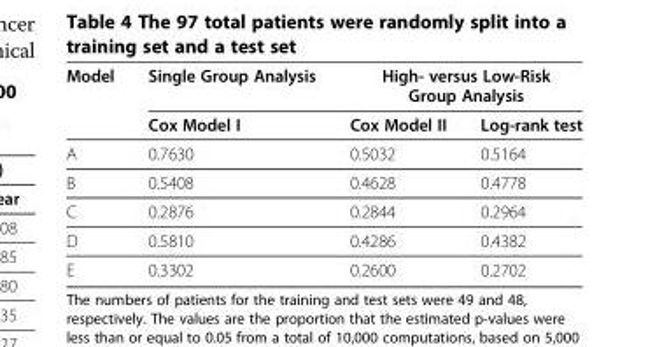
<table><thead><tr><td rowspan="2">Model</td><td rowspan="2">Single Group Analysis Cox Model I</td><td colspan="2">High- versus Low-Risk Group Analysis</td></tr><tr><td>Cox Model II</td><td>Log-rank test</td></tr></thead><tbody><tr><td>A</td><td>0.7630</td><td>0.5032</td><td>0.5164</td></tr><tr><td>B</td><td>0.5408</td><td>0.4628</td><td>0.4778</td></tr><tr><td>C</td><td>0.2876</td><td>0.2844</td><td>0.2964</td></tr><tr><td>D</td><td>0.5810</td><td>0.4286</td><td>0.4382</td></tr><tr><td>E</td><td>0.3302</td><td>0.2600</td><td>0.2702</td></tr></tbody></table>